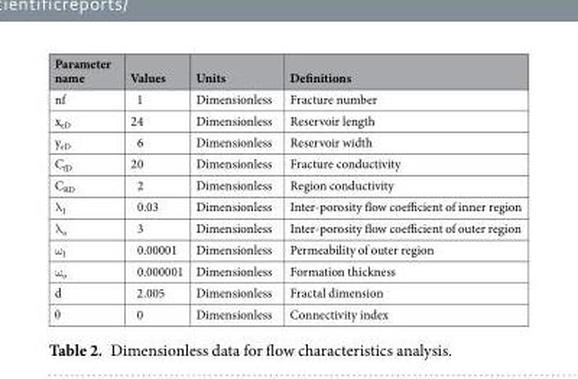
<table><thead><tr><td>Parameter name</td><td>Values</td><td>Units</td><td>Definitions</td></tr></thead><tbody><tr><td>nf</td><td>1</td><td>Dimensionless</td><td>Fracture number</td></tr><tr><td>x<sub>eD</sub></td><td>24</td><td>Dimensionless</td><td>Reservoir length</td></tr><tr><td>y<sub>eD</sub></td><td>6</td><td>Dimensionless</td><td>Reservoir width</td></tr><tr><td>C<sub>fD</sub></td><td>20</td><td>Dimensionless</td><td>Fracture conductivity</td></tr><tr><td>C<sub>RD</sub></td><td>2</td><td>Dimensionless</td><td>Region conductivity</td></tr><tr><td>λ<sub>I</sub></td><td>0.03</td><td>Dimensionless</td><td>Inter-porosity flow coefficient of inner region</td></tr><tr><td>λ<sub>o</sub></td><td>3</td><td>Dimensionless</td><td>Inter-porosity flow coefficient of outer region</td></tr><tr><td>ω<sub>I</sub></td><td>0.00001</td><td>Dimensionless</td><td>Permeability of outer region</td></tr><tr><td>ω<sub>o</sub></td><td>0.000001</td><td>Dimensionless</td><td>Formation thickness</td></tr><tr><td>d</td><td>2.005</td><td>Dimensionless</td><td>Fractal dimension</td></tr><tr><td>θ</td><td>0</td><td>Dimensionless</td><td>Connectivity index</td></tr></tbody></table>